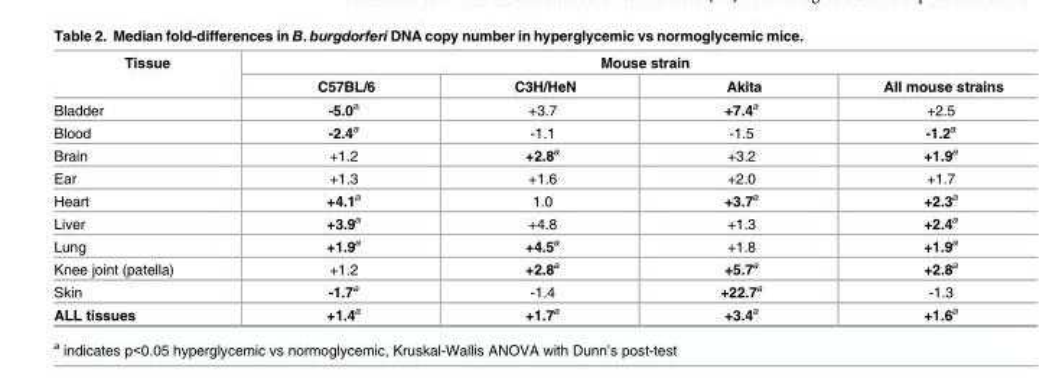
<table><thead><tr><td rowspan="2">Tissue</td><td colspan="4">Mouse strain</td></tr><tr><td>C57BL/6</td><td>C3H/HeN</td><td>Akita</td><td>All mouse strains</td></tr></thead><tbody><tr><td>Bladder</td><td>-5.0<sup>a</sup></td><td>+3.7</td><td>+7.4<sup>a</sup></td><td>+2.5</td></tr><tr><td>Blood</td><td>-2.4<sup>a</sup></td><td>-1.1</td><td>-1.5</td><td>-1.2<sup>a</sup></td></tr><tr><td>Brain</td><td>+1.2</td><td>+2.8<sup>a</sup></td><td>+3.2</td><td>+1.9<sup>a</sup></td></tr><tr><td>Ear</td><td>+1.3</td><td>+1.6</td><td>+2.0</td><td>+1.7</td></tr><tr><td>Heart</td><td>+4.1<sup>a</sup></td><td>1.0</td><td>+3.7<sup>a</sup></td><td>+2.3<sup>a</sup></td></tr><tr><td>Liver</td><td>+3.9<sup>a</sup></td><td>+4.8</td><td>+1.3</td><td>+2.4<sup>a</sup></td></tr><tr><td>Lung</td><td>+1.9<sup>a</sup></td><td>+4.5<sup>a</sup></td><td>+1.8</td><td>+1.9<sup>a</sup></td></tr><tr><td>Knee joint (patella)</td><td>+1.2</td><td>+2.8<sup>a</sup></td><td>+5.7<sup>a</sup></td><td>+2.8<sup>a</sup></td></tr><tr><td>Skin</td><td>-1.7<sup>a</sup></td><td>-1.4</td><td>+22.7<sup>a</sup></td><td>-1.3</td></tr><tr><td>ALL tissues</td><td>+1.4<sup>a</sup></td><td>+1.7<sup>a</sup></td><td>+3.4<sup>a</sup></td><td>+1.6<sup>a</sup></td></tr></tbody></table>